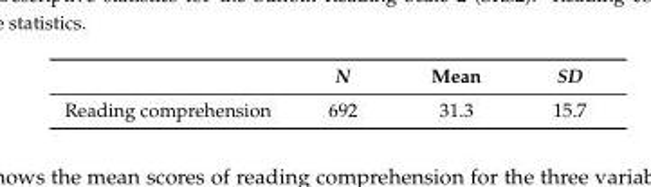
<table><thead><tr><td></td><td>N</td><td>Mean</td><td>SD</td></tr></thead><tbody><tr><td>Reading comprehension</td><td>692</td><td>31.3</td><td>15.7</td></tr></tbody></table>